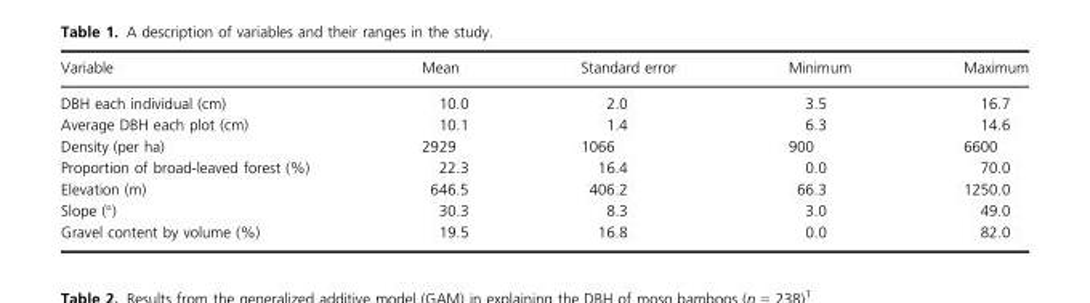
<table><thead><tr><td>Variable</td><td>Mean</td><td>Standard error</td><td>Minimum</td><td>Maximum</td></tr></thead><tbody><tr><td>DBH each individual (cm)</td><td>10.0</td><td>2.0</td><td>3.5</td><td>16.7</td></tr><tr><td>Average DBH each plot (cm)</td><td>10.1</td><td>1.4</td><td>6.3</td><td>14.6</td></tr><tr><td>Density (per ha)</td><td>2929</td><td>1066</td><td>900</td><td>6600</td></tr><tr><td>Proportion of broad-leaved forest (%)</td><td>22.3</td><td>16.4</td><td>0.0</td><td>70.0</td></tr><tr><td>Elevation (m)</td><td>646.5</td><td>406.2</td><td>66.3</td><td>1250.0</td></tr><tr><td>Slope (°)</td><td>30.3</td><td>8.3</td><td>3.0</td><td>49.0</td></tr><tr><td>Gravel content by volume (%)</td><td>19.5</td><td>16.8</td><td>0.0</td><td>82.0</td></tr></tbody></table>